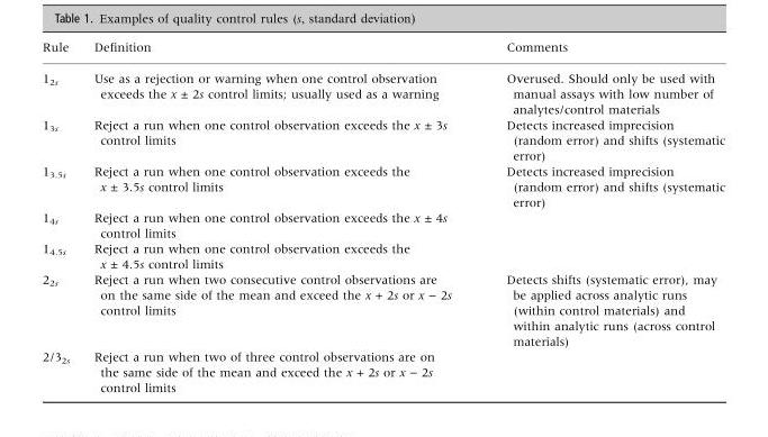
<table><thead><tr><td>Rule</td><td>Definition</td><td>Comments</td></tr></thead><tbody><tr><td>1<sub>2s</sub></td><td>Use as a rejection or warning when one control observation exceeds the x ± 2s control limits; usually used as a warning</td><td>Overused. Should only be used with manual assays with low number of analytes/control materials</td></tr><tr><td>1<sub>3s</sub></td><td>Reject a run when one control observation exceeds the x ± 3s control limits</td><td>Detects increased imprecision (random error) and shifts (systematic error)</td></tr><tr><td>1<sub>3.5s</sub></td><td>Reject a run when one control observation exceeds the x ± 3.5s control limits</td><td>Detects increased imprecision (random error) and shifts (systematic error)</td></tr><tr><td>1<sub>4s</sub></td><td>Reject a run when one control observation exceeds the x ± 4s control limits</td><td></td></tr><tr><td>1<sub>4.5s</sub></td><td>Reject a run when one control observation exceeds the x ± 4.5s control limits</td><td></td></tr><tr><td>2<sub>2s</sub></td><td>Reject a run when two consecutive control observations are on the same side of the mean and exceed the x + 2s or x − 2s control limits</td><td>Detects shifts (systematic error), may be applied across analytic runs (within control materials) and within analytic runs (across control materials)</td></tr><tr><td>2/3<sub>2s</sub></td><td>Reject a run when two of three control observations are on the same side of the mean and exceed the x + 2s or x − 2s control limits</td><td></td></tr></tbody></table>